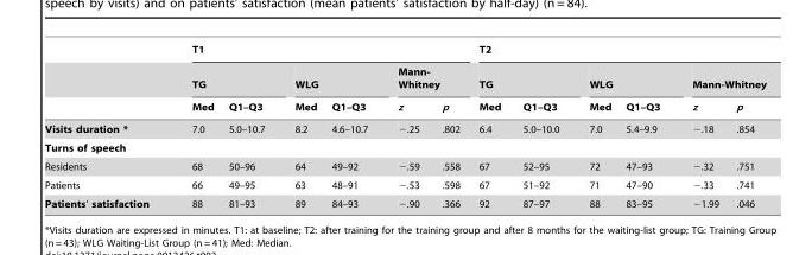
<table><thead><tr><td rowspan="3"></td><td colspan="6">T1</td><td colspan="6">T2</td></tr><tr><td colspan="2">TG</td><td colspan="2">WLG</td><td colspan="2">Mann- Whitney</td><td colspan="2">TG</td><td colspan="2">WLG</td><td colspan="2">Mann-Whitney</td></tr><tr><td>Med</td><td>Q1–Q3</td><td>Med</td><td>Q1–Q3</td><td>z</td><td>p</td><td>Med</td><td>Q1–Q3</td><td>Med</td><td>Q1–Q3</td><td>z</td><td>p</td></tr></thead><tbody><tr><td>Visits duration *</td><td>7.0</td><td>5.0–10.7</td><td>8.2</td><td>4.6–10.7</td><td>−.25</td><td>.802</td><td>6.4</td><td>5.0–10.0</td><td>7.0</td><td>5.4–9.9</td><td>−.18</td><td>.854</td></tr><tr><td colspan="13">Turns of speech</td></tr><tr><td>Residents</td><td>68</td><td>50–96</td><td>64</td><td>49–92</td><td>−.59</td><td>.558</td><td>67</td><td>52–95</td><td>72</td><td>47–93</td><td>−.32</td><td>.751</td></tr><tr><td>Patients</td><td>66</td><td>49–95</td><td>63</td><td>48–91</td><td>−.53</td><td>.598</td><td>67</td><td>51–92</td><td>71</td><td>47–90</td><td>−.33</td><td>.741</td></tr><tr><td>Patients’ satisfaction</td><td>88</td><td>81–93</td><td>89</td><td>84–93</td><td>−.90</td><td>.366</td><td>92</td><td>87–97</td><td>88</td><td>83–95</td><td>−1.99</td><td>.046</td></tr></tbody></table>